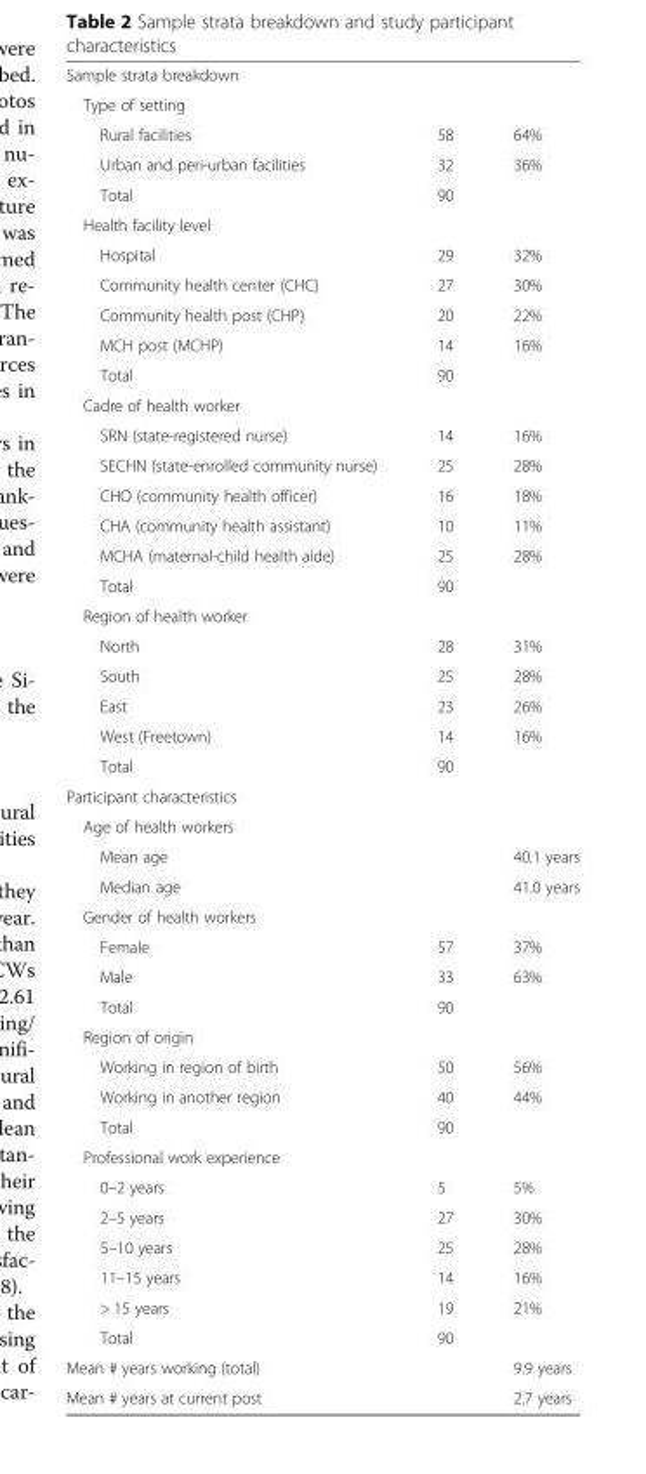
<table><tbody><tr><td colspan="3">Sample strata breakdown</td></tr><tr><td colspan="3">Type of setting</td></tr><tr><td>Rural facilities</td><td>58</td><td>64%</td></tr><tr><td>Urban and peri-urban facilities</td><td>32</td><td>36%</td></tr><tr><td>Total</td><td>90</td><td></td></tr><tr><td colspan="3">Health facility level</td></tr><tr><td>Hospital</td><td>29</td><td>32%</td></tr><tr><td>Community health center (CHC)</td><td>27</td><td>30%</td></tr><tr><td>Community health post (CHP)</td><td>20</td><td>22%</td></tr><tr><td>MCH post (MCHP)</td><td>14</td><td>16%</td></tr><tr><td>Total</td><td>90</td><td></td></tr><tr><td colspan="3">Cadre of health worker</td></tr><tr><td>SRN (state-registered nurse)</td><td>14</td><td>16%</td></tr><tr><td>SECHN (state-enrolled community nurse)</td><td>25</td><td>28%</td></tr><tr><td>CHO (community health officer)</td><td>16</td><td>18%</td></tr><tr><td>CHA (community health assistant)</td><td>10</td><td>11%</td></tr><tr><td>MCHA (maternal-child health aide)</td><td>25</td><td>28%</td></tr><tr><td>Total</td><td>90</td><td></td></tr><tr><td colspan="3">Region of health worker</td></tr><tr><td>North</td><td>28</td><td>31%</td></tr><tr><td>South</td><td>25</td><td>28%</td></tr><tr><td>East</td><td>23</td><td>26%</td></tr><tr><td>West (Freetown)</td><td>14</td><td>16%</td></tr><tr><td>Total</td><td>90</td><td></td></tr><tr><td colspan="3">Participant characteristics</td></tr><tr><td colspan="3">Age of health workers</td></tr><tr><td colspan="2">Mean age</td><td>40.1 years</td></tr><tr><td colspan="2">Median age</td><td>41.0 years</td></tr><tr><td colspan="3">Gender of health workers</td></tr><tr><td>Female</td><td>57</td><td>37%</td></tr><tr><td>Male</td><td>33</td><td>63%</td></tr><tr><td>Total</td><td>90</td><td></td></tr><tr><td colspan="3">Region of origin</td></tr><tr><td>Working in region of birth</td><td>50</td><td>56%</td></tr><tr><td>Working in another region</td><td>40</td><td>44%</td></tr><tr><td>Total</td><td>90</td><td></td></tr><tr><td colspan="3">Professional work experience</td></tr><tr><td>0–2 years</td><td>5</td><td>5%</td></tr><tr><td>2–5 years</td><td>27</td><td>30%</td></tr><tr><td>5–10 years</td><td>25</td><td>28%</td></tr><tr><td>11–15 years</td><td>14</td><td>16%</td></tr><tr><td>&gt; 15 years</td><td>19</td><td>21%</td></tr><tr><td>Total</td><td>90</td><td></td></tr><tr><td colspan="2">Mean # years working (total)</td><td>9.9 years</td></tr><tr><td colspan="2">Mean # years at current post</td><td>2.7 years</td></tr></tbody></table>